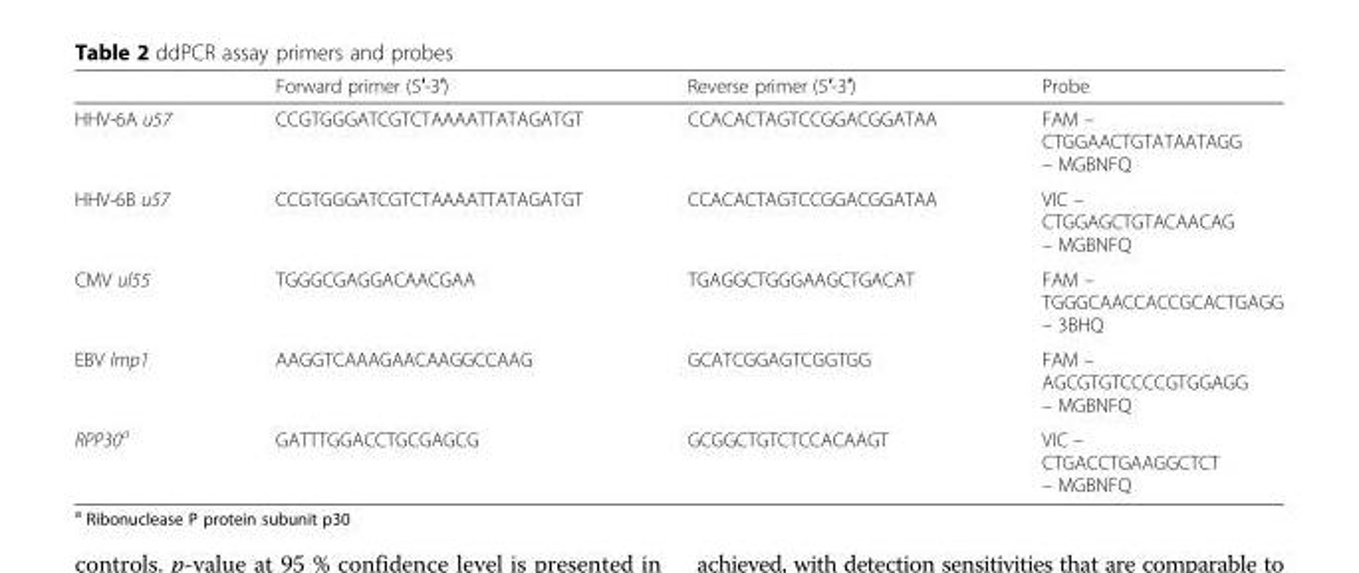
<table><thead><tr><td></td><td>Forward primer (5′-3′)</td><td>Reverse primer (5′-3′)</td><td>Probe</td></tr></thead><tbody><tr><td>HHV-6A u57</td><td>CCGTGGGATCGTCTAAAATTATAGATGT</td><td>CCACACTAGTCCGGACGGATAA</td><td>FAM – CTGGAACTGTATAATAGG – MGBNFQ</td></tr><tr><td>HHV-6B u57</td><td>CCGTGGGATCGTCTAAAATTATAGATGT</td><td>CCACACTAGTCCGGACGGATAA</td><td>VIC – CTGGAGCTGTACAACAG – MGBNFQ</td></tr><tr><td>CMV ul55</td><td>TGGGCGAGGACAACGAA</td><td>TGAGGCTGGGAAGCTGACAT</td><td>FAM – TGGGCAACCACCGCACTGAGG – 3BHQ</td></tr><tr><td>EBV lmp1</td><td>AAGGTCAAAGAACAAGGCCAAG</td><td>GCATCGGAGTCGGTGG</td><td>FAM – AGCGTGTCCCCGTGGAGG – MGBNFQ</td></tr><tr><td>RPP30<sup>a</sup></td><td>GATTTGGACCTGCGAGCG</td><td>GCGGCTGTCTCCACAAGT</td><td>VIC – CTGACCTGAAGGCTCT – MGBNFQ</td></tr></tbody></table>